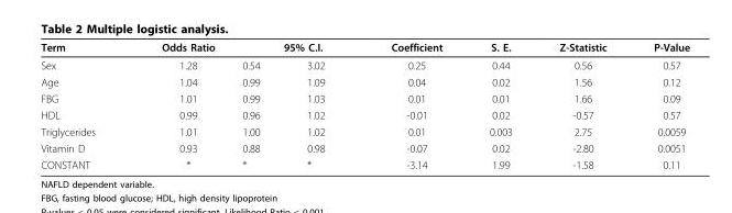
<table><thead><tr><td rowspan="2">Term Sex</td><td rowspan="2">Odds Ratio 1.28</td><td colspan="2">95% C.I.</td><td rowspan="2">Coefficient 0.25</td><td rowspan="2">S. E. 0.44</td><td rowspan="2">Z-Statistic 0.56</td><td rowspan="2">P-Value 0.57</td></tr><tr><td>0.54</td><td>3.02</td></tr></thead><tbody><tr><td>Age</td><td>1.04</td><td>0.99</td><td>1.09</td><td>0.04</td><td>0.02</td><td>1.56</td><td>0.12</td></tr><tr><td>FBG</td><td>1.01</td><td>0.99</td><td>1.03</td><td>0.01</td><td>0.01</td><td>1.66</td><td>0.09</td></tr><tr><td>HDL</td><td>0.99</td><td>0.96</td><td>1.02</td><td>-0.01</td><td>0.02</td><td>-0.57</td><td>0.57</td></tr><tr><td>Triglycerides</td><td>1.01</td><td>1.00</td><td>1.02</td><td>0.01</td><td>0.003</td><td>2.75</td><td>0.0059</td></tr><tr><td>Vitamin D</td><td>0.93</td><td>0.88</td><td>0.98</td><td>-0.07</td><td>0.02</td><td>-2.80</td><td>0.0051</td></tr><tr><td>CONSTANT</td><td>*</td><td>*</td><td>*</td><td>-3.14</td><td>1.99</td><td>-1.58</td><td>0.11</td></tr></tbody></table>